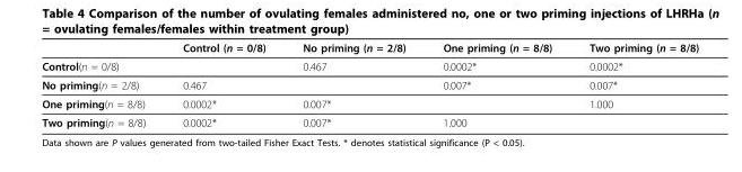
<table><thead><tr><td></td><td>Control (n = 0/8)</td><td>No priming (n = 2/8)</td><td>One priming (n = 8/8)</td><td>Two priming (n = 8/8)</td></tr></thead><tbody><tr><td>Control(n = 0/8)</td><td></td><td>0.467</td><td>0.0002*</td><td>0.0002*</td></tr><tr><td>No priming(n = 2/8)</td><td>0.467</td><td></td><td>0.007*</td><td>0.007*</td></tr><tr><td>One priming(n = 8/8)</td><td>0.0002*</td><td>0.007*</td><td></td><td>1.000</td></tr><tr><td>Two priming(n = 8/8)</td><td>0.0002*</td><td>0.007*</td><td>1.000</td><td></td></tr></tbody></table>